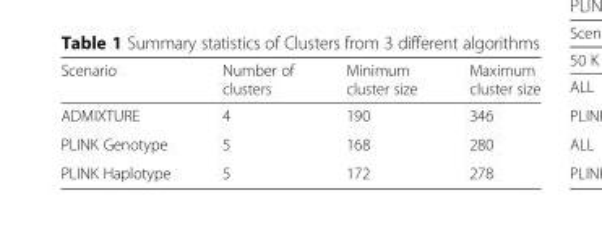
<table><thead><tr><td>Scenario</td><td>Number of clusters</td><td>Minimum cluster size</td><td>Maximum cluster size</td></tr></thead><tbody><tr><td>ADMIXTURE</td><td>4</td><td>190</td><td>346</td></tr><tr><td>PLINK Genotype</td><td>5</td><td>168</td><td>280</td></tr><tr><td>PLINK Haplotype</td><td>5</td><td>172</td><td>278</td></tr></tbody></table>